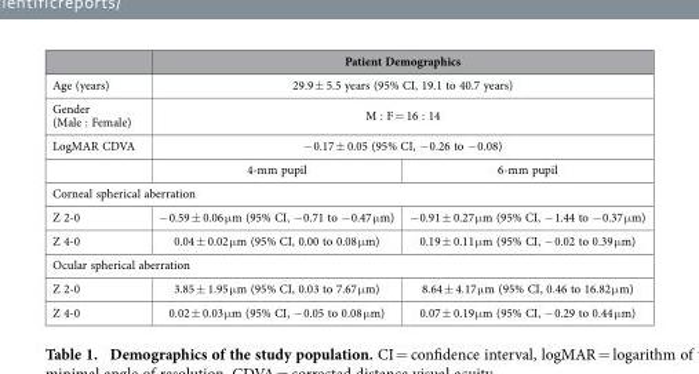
<table><thead><tr><td></td><td colspan="2">Patient Demographics</td></tr></thead><tbody><tr><td>Age (years)</td><td colspan="2">29.9 ± 5.5 years (95% CI, 19.1 to 40.7 years)</td></tr><tr><td>Gender (Male : Female)</td><td colspan="2">M : F = 16 : 14</td></tr><tr><td rowspan="2">LogMAR CDVA</td><td colspan="2">− 0.17 ± 0.05 (95% CI, − 0.26 to − 0.08)</td></tr><tr><td>4-mm pupil</td><td>6-mm pupil</td></tr><tr><td colspan="3">Corneal spherical aberration</td></tr><tr><td>Z 2-0</td><td>− 0.59 ± 0.06 μ m (95% CI, − 0.71 to − 0.47 μ m)</td><td>− 0.91 ± 0.27 μ m (95% CI, − 1.44 to − 0.37 μ m)</td></tr><tr><td>Z 4-0</td><td>0.04 ± 0.02 μ m (95% CI, 0.00 to 0.08 μ m)</td><td>0.19 ± 0.11 μ m (95% CI, − 0.02 to 0.39 μ m)</td></tr><tr><td colspan="3">Ocular spherical aberration</td></tr><tr><td>Z 2-0</td><td>3.85 ± 1.95 μ m (95% CI, 0.03 to 7.67 μ m)</td><td>8.64 ± 4.17 μ m (95% CI, 0.46 to 16.82 μ m)</td></tr><tr><td>Z 4-0</td><td>0.02 ± 0.03 μ m (95% CI, − 0.05 to 0.08 μ m)</td><td>0.07 ± 0.19 μ m (95% CI, − 0.29 to 0.44 μ m)</td></tr></tbody></table>